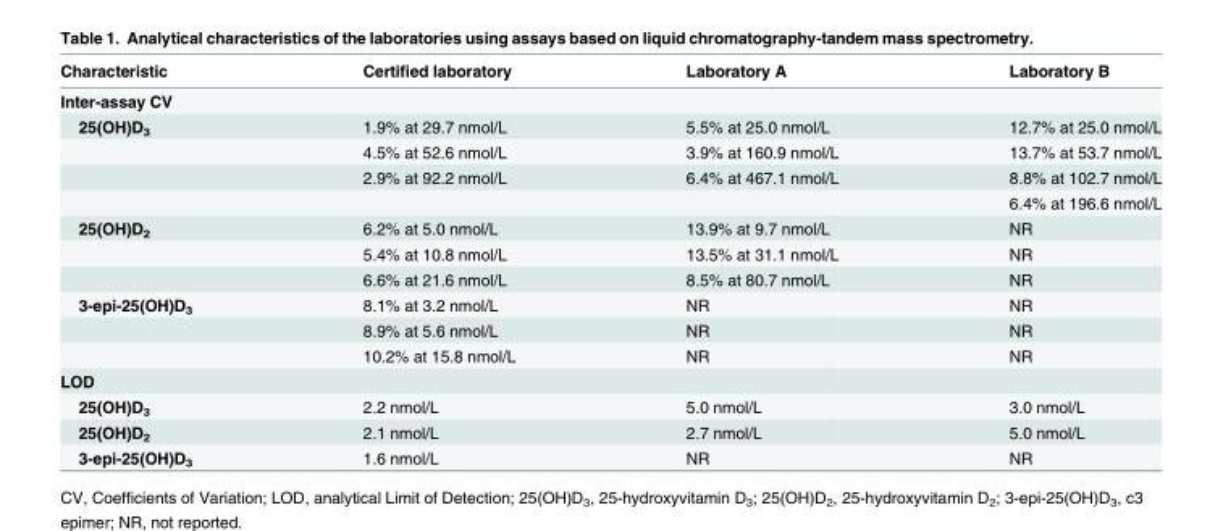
<table><thead><tr><td>Characteristic</td><td>Certified laboratory</td><td>Laboratory A</td><td>Laboratory B</td></tr></thead><tbody><tr><td colspan="4">Inter-assay CV</td></tr><tr><td rowspan="4">25(OH)D<sub>3</sub></td><td>1.9% at 29.7 nmol/L</td><td>5.5% at 25.0 nmol/L</td><td>12.7% at 25.0 nmol/L</td></tr><tr><td>4.5% at 52.6 nmol/L</td><td>3.9% at 160.9 nmol/L</td><td>13.7% at 53.7 nmol/L</td></tr><tr><td>2.9% at 92.2 nmol/L</td><td>6.4% at 467.1 nmol/L</td><td>8.8% at 102.7 nmol/L</td></tr><tr><td></td><td></td><td>6.4% at 196.6 nmol/L</td></tr><tr><td rowspan="3">25(OH)D<sub>2</sub></td><td>6.2% at 5.0 nmol/L</td><td>13.9% at 9.7 nmol/L</td><td>NR</td></tr><tr><td>5.4% at 10.8 nmol/L</td><td>13.5% at 31.1 nmol/L</td><td>NR</td></tr><tr><td>6.6% at 21.6 nmol/L</td><td>8.5% at 80.7 nmol/L</td><td>NR</td></tr><tr><td rowspan="3">3-epi-25(OH)D<sub>3</sub></td><td>8.1% at 3.2 nmol/L</td><td>NR</td><td>NR</td></tr><tr><td>8.9% at 5.6 nmol/L</td><td>NR</td><td>NR</td></tr><tr><td>10.2% at 15.8 nmol/L</td><td>NR</td><td>NR</td></tr><tr><td colspan="4">LOD</td></tr><tr><td>25(OH)D<sub>3</sub></td><td>2.2 nmol/L</td><td>5.0 nmol/L</td><td>3.0 nmol/L</td></tr><tr><td>25(OH)D<sub>2</sub></td><td>2.1 nmol/L</td><td>2.7 nmol/L</td><td>5.0 nmol/L</td></tr><tr><td>3-epi-25(OH)D<sub>3</sub></td><td>1.6 nmol/L</td><td>NR</td><td>NR</td></tr></tbody></table>